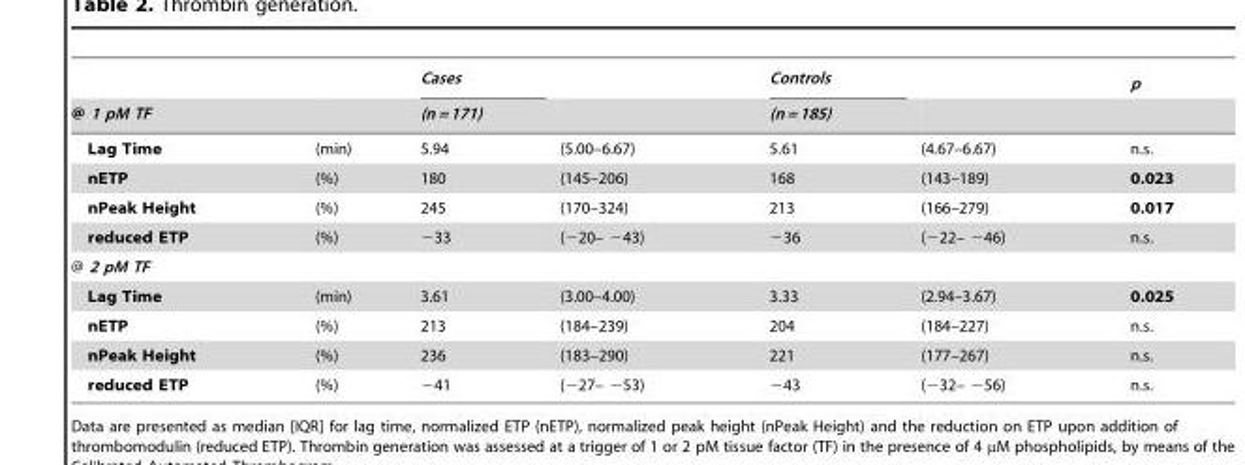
<table><thead><tr><td rowspan="2">@ 1 pM TF</td><td rowspan="2"></td><td rowspan="2">Cases (n = 171)</td><td rowspan="2"></td><td rowspan="2">Controls (n = 185)</td><td rowspan="2"></td><td rowspan="2">p</td></tr><tr></tr></thead><tbody><tr><td>Lag Time</td><td>(min)</td><td>5.94</td><td>(5.00–6.67)</td><td>5.61</td><td>(4.67–6.67)</td><td>n.s.</td></tr><tr><td>nETP</td><td>(%)</td><td>180</td><td>(145–206)</td><td>168</td><td>(143–189)</td><td>0.023</td></tr><tr><td>nPeak Height</td><td>(%)</td><td>245</td><td>(170–324)</td><td>213</td><td>(166–279)</td><td>0.017</td></tr><tr><td>reduced ETP</td><td>(%)</td><td>−33</td><td>(−20– −43)</td><td>−36</td><td>(−22– −46)</td><td>n.s.</td></tr><tr><td colspan="7">@ 2 pM TF</td></tr><tr><td>Lag Time</td><td>(min)</td><td>3.61</td><td>(3.00–4.00)</td><td>3.33</td><td>(2.94–3.67)</td><td>0.025</td></tr><tr><td>nETP</td><td>(%)</td><td>213</td><td>(184–239)</td><td>204</td><td>(184–227)</td><td>n.s.</td></tr><tr><td>nPeak Height</td><td>(%)</td><td>236</td><td>(183–290)</td><td>221</td><td>(177–267)</td><td>n.s.</td></tr><tr><td>reduced ETP</td><td>(%)</td><td>−41</td><td>(−27– −53)</td><td>−43</td><td>(−32– −56)</td><td>n.s.</td></tr></tbody></table>